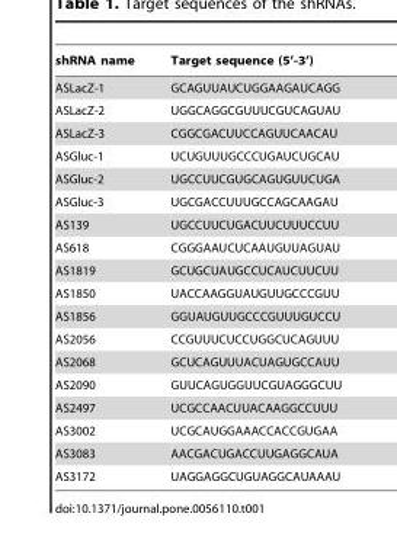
<table><thead><tr><td>shRNA name</td><td>Target sequence (5’-3’)</td></tr></thead><tbody><tr><td>ASLacZ-1</td><td>GCAGUUAUCUGGAAGAUCAGG</td></tr><tr><td>ASLacZ-2</td><td>UGGCAGGCGUUUCGUCAGUAU</td></tr><tr><td>ASLacZ-3</td><td>CGGCGACUUCCAGUUCAACAU</td></tr><tr><td>ASGluc-1</td><td>UCUGUUUGCCCUGAUCUGCAU</td></tr><tr><td>ASGluc-2</td><td>UGCCUUCGUGCAGUGUUCUGA</td></tr><tr><td>ASGluc-3</td><td>UGCGACCUUUGCCAGCAAGAU</td></tr><tr><td>AS139</td><td>UGCCUUCUGACUUCUUUCCUU</td></tr><tr><td>AS618</td><td>CGGGAAUCUCAAUGUUAGUAU</td></tr><tr><td>AS1819</td><td>GCUGCUAUGCCUCAUCUUCUU</td></tr><tr><td>AS1850</td><td>UACCAAGGUAUGUUGCCCGUU</td></tr><tr><td>AS1856</td><td>GGUAUGUUGCCCGUUUGUCCU</td></tr><tr><td>AS2056</td><td>CCGUUUCUCCUGGCUCAGUUU</td></tr><tr><td>AS2068</td><td>GCUCAGUUUACUAGUGCCAUU</td></tr><tr><td>AS2090</td><td>GUUCAGUGGUUCGUAGGGCUU</td></tr><tr><td>AS2497</td><td>UCGCCAACUUACAAGGCCUUU</td></tr><tr><td>AS3002</td><td>UCGCAUGGAAACCACCGUGAA</td></tr><tr><td>AS3083</td><td>AACGACUGACCUUGAGGCAUA</td></tr><tr><td>AS3172</td><td>UAGGAGGCUGUAGGCAUAAAU</td></tr></tbody></table>